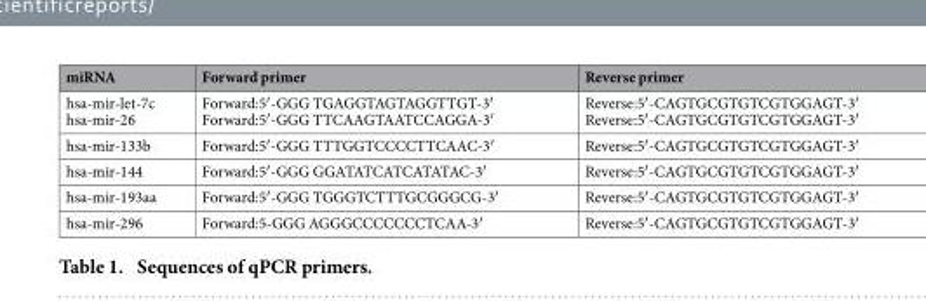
<table><thead><tr><td>miRNA</td><td>Forward primer</td><td>Reverse primer</td></tr></thead><tbody><tr><td>hsa-mir-let-7c hsa-mir-26</td><td>Forward:5′ -GGG TGAGGTAGTAGGTTGT-3′ Forward:5′ -GGG TTCAAGTAATCCAGGA-3′</td><td>Reverse:5′ -CAGTGCGTGTCGTGGAGT-3′ Reverse:5′ -CAGTGCGTGTCGTGGAGT-3′</td></tr><tr><td>hsa-mir-133b</td><td>Forward:5′ -GGG TTTGGTCCCCTTCAAC-3′</td><td>Reverse:5′ -CAGTGCGTGTCGTGGAGT-3′</td></tr><tr><td>hsa-mir-144</td><td>Forward:5′ -GGG GGATATCATCATATAC-3′</td><td>Reverse:5′ -CAGTGCGTGTCGTGGAGT-3′</td></tr><tr><td>hsa-mir-193aa</td><td>Forward:5′ -GGG TGGGTCTTTGCGGGCG-3′</td><td>Reverse:5′ -CAGTGCGTGTCGTGGAGT-3′</td></tr><tr><td>hsa-mir-296</td><td>Forward:5-GGG AGGGCCCCCCCTCAA-3′</td><td>Reverse:5′ -CAGTGCGTGTCGTGGAGT-3′</td></tr></tbody></table>